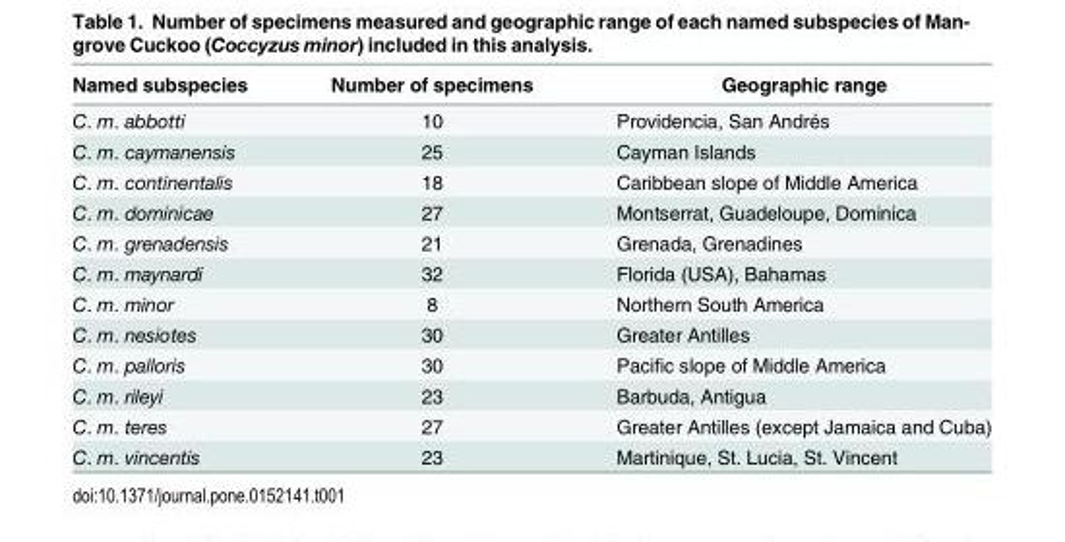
<table><thead><tr><td>Named subspecies</td><td>Number of specimens</td><td>Geographic range</td></tr></thead><tbody><tr><td>C. m. abbotti</td><td>10</td><td>Providencia, San Andrés</td></tr><tr><td>C. m. caymanensis</td><td>25</td><td>Cayman Islands</td></tr><tr><td>C. m. continentalis</td><td>18</td><td>Caribbean slope of Middle America</td></tr><tr><td>C. m. dominicae</td><td>27</td><td>Montserrat, Guadeloupe, Dominica</td></tr><tr><td>C. m. grenadensis</td><td>21</td><td>Grenada, Grenadines</td></tr><tr><td>C. m. maynardi</td><td>32</td><td>Florida (USA), Bahamas</td></tr><tr><td>C. m. minor</td><td>8</td><td>Northern South America</td></tr><tr><td>C. m. nesiotes</td><td>30</td><td>Greater Antilles</td></tr><tr><td>C. m. palloris</td><td>30</td><td>Pacific slope of Middle America</td></tr><tr><td>C. m. rileyi</td><td>23</td><td>Barbuda, Antigua</td></tr><tr><td>C. m. teres</td><td>27</td><td>Greater Antilles (except Jamaica and Cuba)</td></tr><tr><td>C. m. vincentis</td><td>23</td><td>Martinique, St. Lucia, St. Vincent</td></tr></tbody></table>